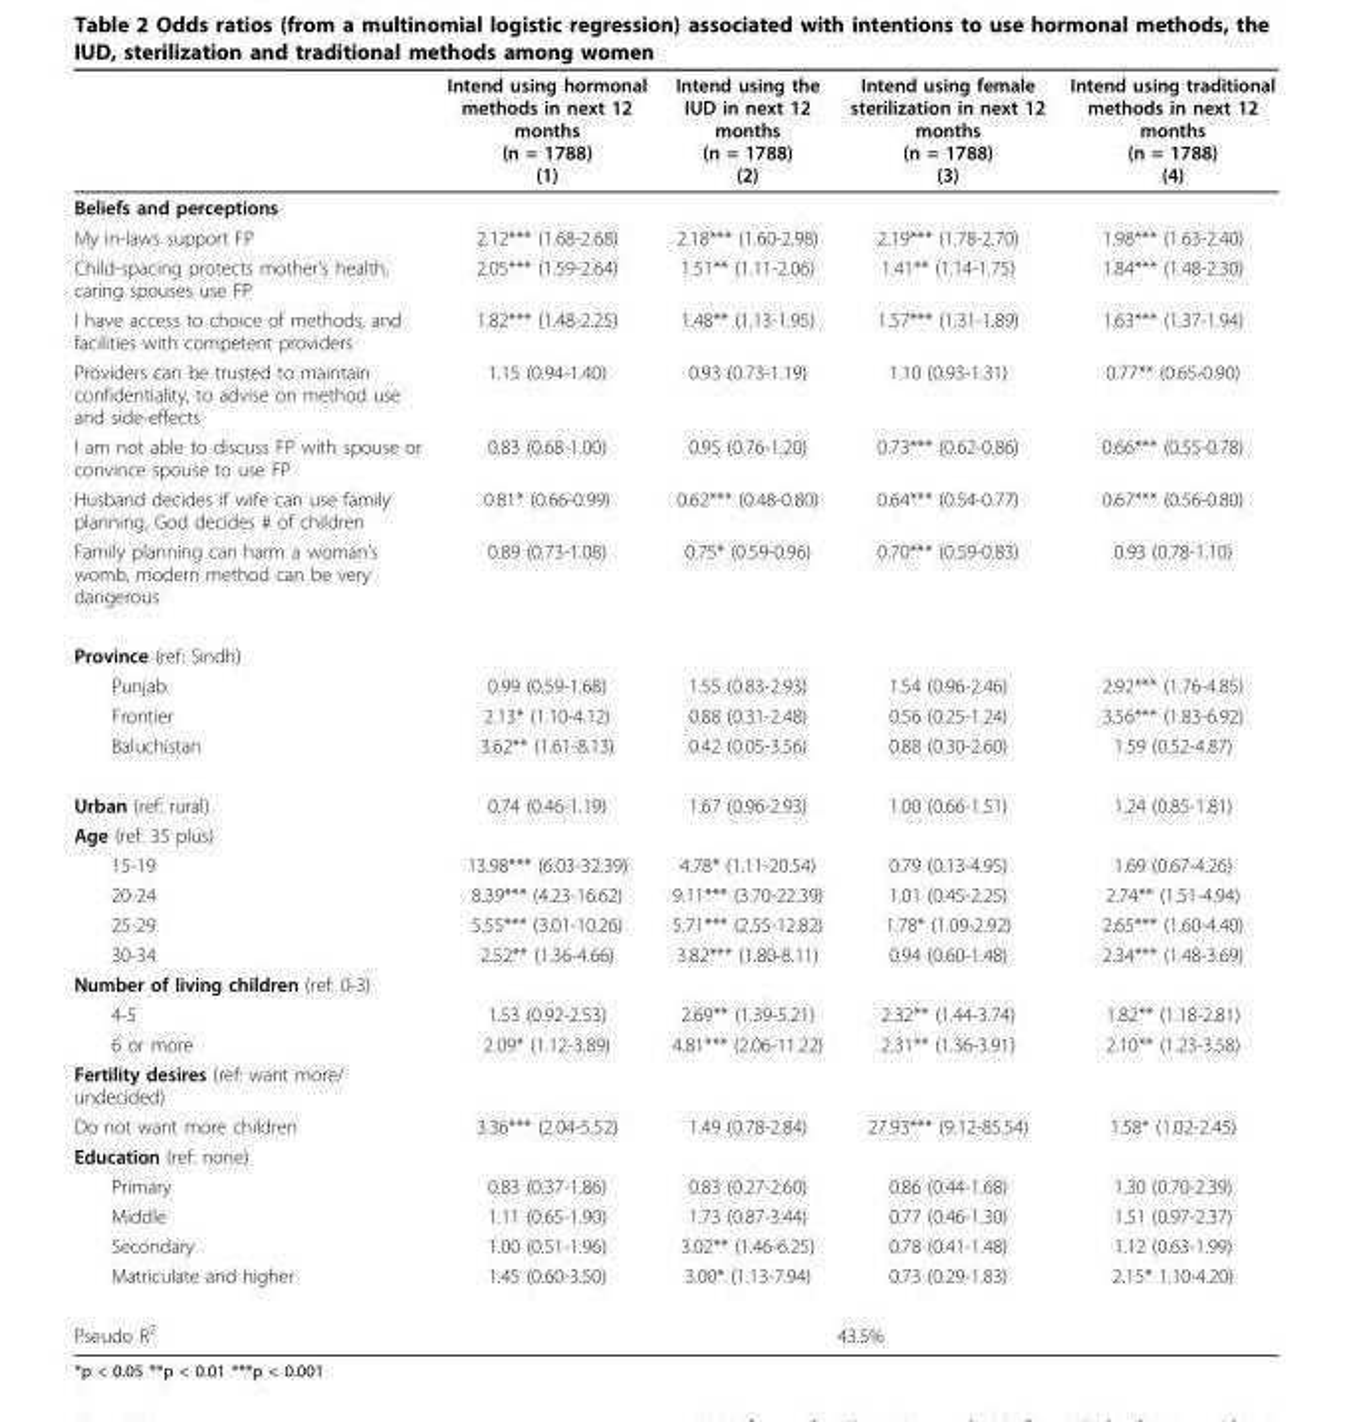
<table><thead><tr><td></td><td>Intend using hormonal methods in next 12 months (n = 1788) (1)</td><td>Intend using the IUD in next 12 months (n = 1788) (2)</td><td>Intend using female sterilization in next 12 months (n = 1788) (3)</td><td>Intend using traditional methods in next 12 months (n = 1788) (4)</td></tr></thead><tbody><tr><td colspan="5">Beliefs and perceptions</td></tr><tr><td>My in-laws support FP</td><td>2.12*** (1.68-2.68)</td><td>2.18*** (1.60-2.98)</td><td>2.19*** (1.78-2.70)</td><td>1.98*** (1.63-2.40)</td></tr><tr><td>Child-spacing protects mother’s health, caring spouses use FP</td><td>2.05*** (1.59-2.64)</td><td>1.51** (1.11-2.06)</td><td>1.41** (1.14-1.75)</td><td>1.84*** (1.48-2.30)</td></tr><tr><td>I have access to choice of methods, and facilities with competent providers</td><td>1.82*** (1.48-2.25)</td><td>1.48** (1.13-1.95)</td><td>1.57*** (1.31-1.89)</td><td>1.63*** (1.37-1.94)</td></tr><tr><td>Providers can be trusted to maintain confidentiality, to advise on method use and side-effects</td><td>1.15 (0.94-1.40)</td><td>0.93 (0.73-1.19)</td><td>1.10 (0.93-1.31)</td><td>0.77** (0.65-0.90)</td></tr><tr><td>I am not able to discuss FP with spouse or convince spouse to use FP</td><td>0.83 (0.68-1.00)</td><td>0.95 (0.76-1.20)</td><td>0.73*** (0.62-0.86)</td><td>0.66*** (0.55-0.78)</td></tr><tr><td>Husband decides if wife can use family planning, God decides # of children</td><td>0.81* (0.66-0.99)</td><td>0.62*** (0.48-0.80)</td><td>0.64*** (0.54-0.77)</td><td>0.67*** (0.56-0.80)</td></tr><tr><td>Family planning can harm a woman’s womb, modern method can be very dangerous</td><td>0.89 (0.73-1.08)</td><td>0.75* (0.59-0.96)</td><td>0.70*** (0.59-0.83)</td><td>0.93 (0.78-1.10)</td></tr><tr><td colspan="5">Province (ref: Sindh)</td></tr><tr><td>Punjab</td><td>0.99 (0.59-1.68)</td><td>1.55 (0.83-2.93)</td><td>1.54 (0.96-2.46)</td><td>2.92*** (1.76-4.85)</td></tr><tr><td>Frontier</td><td>2.13* (1.10-4.12)</td><td>0.88 (0.31-2.48)</td><td>0.56 (0.25-1.24)</td><td>3.56*** (1.83-6.92)</td></tr><tr><td>Baluchistan</td><td>3.62** (1.61-8.13)</td><td>0.42 (0.05-3.56)</td><td>0.88 (0.30-2.60)</td><td>1.59 (0.52-4.87)</td></tr><tr><td>Urban (ref: rural)</td><td>0.74 (0.46-1.19)</td><td>1.67 (0.96-2.93)</td><td>1.00 (0.66-1.51)</td><td>1.24 (0.85-1.81)</td></tr><tr><td colspan="5">Age (ref: 35 plus)</td></tr><tr><td>15-19</td><td>13.98*** (6.03-32.39)</td><td>4.78* (1.11-20.54)</td><td>0.79 (0.13-4.95)</td><td>1.69 (0.67-4.26)</td></tr><tr><td>20-24</td><td>8.39*** (4.23-16.62)</td><td>9.11*** (3.70-22.39)</td><td>1.01 (0.45-2.25)</td><td>2.74** (1.51-4.94)</td></tr><tr><td>25-29</td><td>5.55*** (3.01-10.26)</td><td>5.71*** (2.55-12.82)</td><td>1.78* (1.09-2.92)</td><td>2.65*** (1.60-4.40)</td></tr><tr><td>30-34</td><td>2.52** (1.36-4.66)</td><td>3.82*** (1.80-8.11)</td><td>0.94 (0.60-1.48)</td><td>2.34*** (1.48-3.69)</td></tr><tr><td colspan="5">Number of living children (ref: 0-3)</td></tr><tr><td>4-5</td><td>1.53 (0.92-2.53)</td><td>2.69** (1.39-5.21)</td><td>2.32** (1.44-3.74)</td><td>1.82** (1.18-2.81)</td></tr><tr><td>6 or more</td><td>2.09* (1.12-3.89)</td><td>4.81*** (2.06-11.22)</td><td>2.31** (1.36-3.91)</td><td>2.10** (1.23-3.58)</td></tr><tr><td colspan="5">Fertility desires (ref: want more/ undecided)</td></tr><tr><td>Do not want more children</td><td>3.36*** (2.04-5.52)</td><td>1.49 (0.78-2.84)</td><td>27.93*** (9.12-85.54)</td><td>1.58* (1.02-2.45)</td></tr><tr><td colspan="5">Education (ref: none)</td></tr><tr><td>Primary</td><td>0.83 (0.37-1.86)</td><td>0.83 (0.27-2.60)</td><td>0.86 (0.44-1.68)</td><td>1.30 (0.70-2.39)</td></tr><tr><td>Middle</td><td>1.11 (0.65-1.90)</td><td>1.73 (0.87-3.44)</td><td>0.77 (0.46-1.30)</td><td>1.51 (0.97-2.37)</td></tr><tr><td>Secondary</td><td>1.00 (0.51-1.96)</td><td>3.02** (1.46-6.25)</td><td>0.78 (0.41-1.48)</td><td>1.12 (0.63-1.99)</td></tr><tr><td>Matriculate and higher</td><td>1.45 (0.60-3.50)</td><td>3.00* (1.13-7.94)</td><td>0.73 (0.29-1.83)</td><td>2.15* 1.10-4.20)</td></tr><tr><td>Pseudo R<sup>2</sup></td><td colspan="4">43.5%</td></tr></tbody></table>